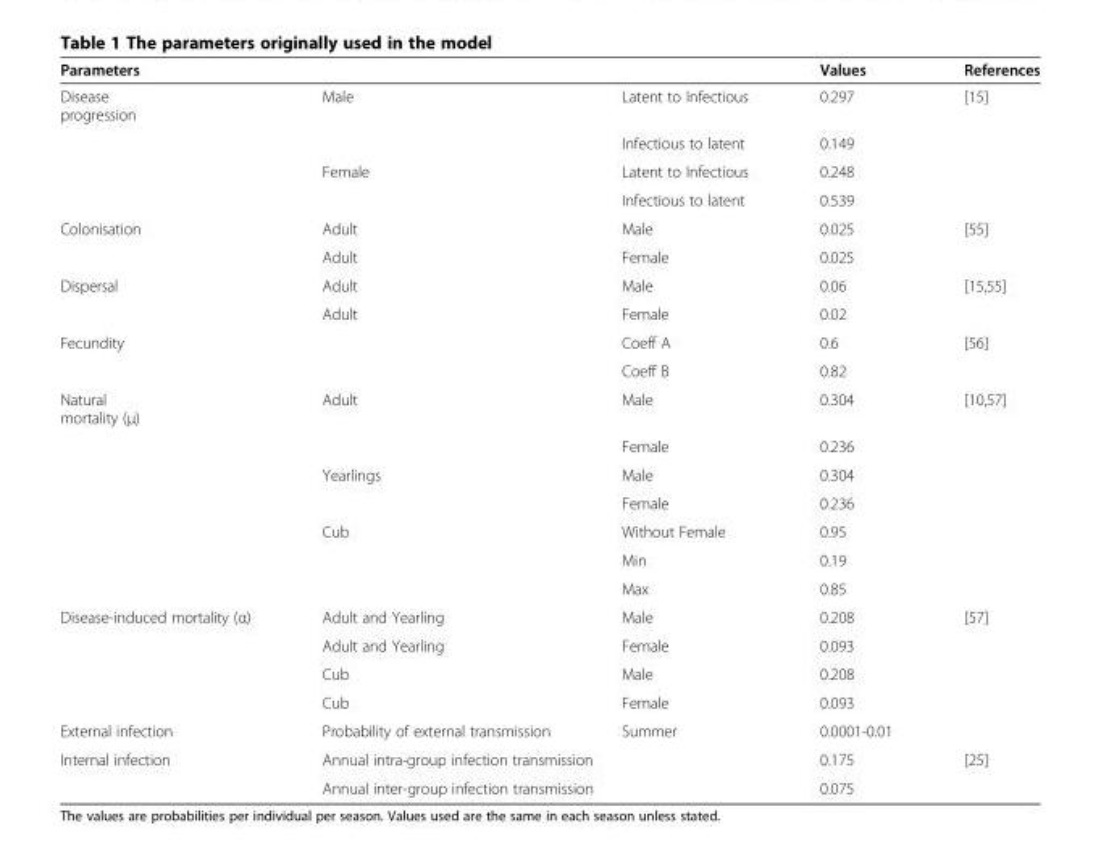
<table><thead><tr><td>Parameters</td><td></td><td></td><td>Values</td><td>References</td></tr></thead><tbody><tr><td rowspan="4">Disease progression</td><td>Male</td><td>Latent to Infectious</td><td>0.297</td><td>[15]</td></tr><tr><td></td><td>Infectious to latent</td><td>0.149</td><td></td></tr><tr><td>Female</td><td>Latent to Infectious</td><td>0.248</td><td></td></tr><tr><td></td><td>Infectious to latent</td><td>0.539</td><td></td></tr><tr><td rowspan="2">Colonisation</td><td>Adult</td><td>Male</td><td>0.025</td><td>[55]</td></tr><tr><td>Adult</td><td>Female</td><td>0.025</td><td></td></tr><tr><td rowspan="2">Dispersal</td><td>Adult</td><td>Male</td><td>0.06</td><td>[15,55]</td></tr><tr><td>Adult</td><td>Female</td><td>0.02</td><td></td></tr><tr><td rowspan="2">Fecundity</td><td></td><td>Coeff A</td><td>0.6</td><td>[56]</td></tr><tr><td></td><td>Coeff B</td><td>0.82</td><td></td></tr><tr><td rowspan="7">Natural mortality (μ)</td><td>Adult</td><td>Male</td><td>0.304</td><td>[10,57]</td></tr><tr><td></td><td>Female</td><td>0.236</td><td></td></tr><tr><td>Yearlings</td><td>Male</td><td>0.304</td><td></td></tr><tr><td></td><td>Female</td><td>0.236</td><td></td></tr><tr><td>Cub</td><td>Without Female</td><td>0.95</td><td></td></tr><tr><td></td><td>Min</td><td>0.19</td><td></td></tr><tr><td></td><td>Max</td><td>0.85</td><td></td></tr><tr><td rowspan="4">Disease-induced mortality (α)</td><td>Adult and Yearling</td><td>Male</td><td>0.208</td><td>[57]</td></tr><tr><td>Adult and Yearling</td><td>Female</td><td>0.093</td><td></td></tr><tr><td>Cub</td><td>Male</td><td>0.208</td><td></td></tr><tr><td>Cub</td><td>Female</td><td>0.093</td><td></td></tr><tr><td>External infection</td><td>Probability of external transmission</td><td>Summer</td><td>0.0001-0.01</td><td></td></tr><tr><td rowspan="2">Internal infection</td><td colspan="2">Annual intra-group infection transmission</td><td>0.175</td><td>[25]</td></tr><tr><td colspan="2">Annual inter-group infection transmission</td><td>0.075</td><td></td></tr></tbody></table>